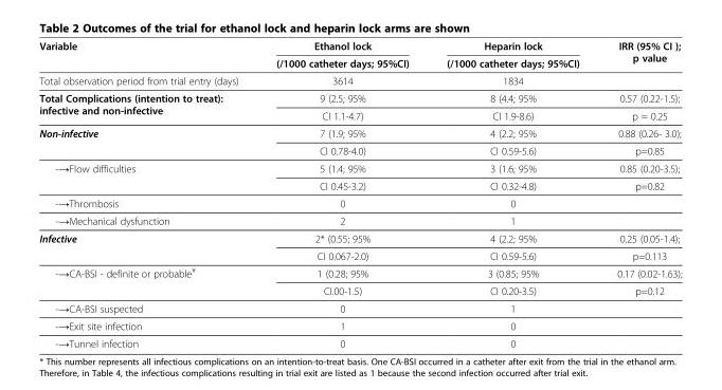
<table><thead><tr><td rowspan="2">Variable</td><td rowspan="2">Ethanol lock (/1000 catheter days; 95%CI)</td><td rowspan="2">Heparin lock (/1000 catheter days; 95%CI)</td><td rowspan="2">IRR (95% CI ); p value</td></tr><tr></tr></thead><tbody><tr><td>Total observation period from trial entry (days)</td><td>3614</td><td>1834</td><td></td></tr><tr><td rowspan="2">Total Complications (intention to treat): infective and non-infective</td><td>9 (2.5; 95%</td><td>8 (4.4; 95%</td><td>0.57 (0.22-1.5);</td></tr><tr><td>CI 1.1-4.7)</td><td>CI 1.9-8.6)</td><td>p = 0.25</td></tr><tr><td rowspan="2">Non-infective</td><td>7 (1.9; 95%</td><td>4 (2.2; 95%</td><td>0.88 (0.26- 3.0);</td></tr><tr><td>CI 0.78-4.0)</td><td>CI 0.59-5.6)</td><td>p=0.85</td></tr><tr><td rowspan="2">-→Flow difficulties</td><td>5 (1.4; 95%</td><td>3 (1.6; 95%</td><td>0.85 (0.20-3.5);</td></tr><tr><td>CI 0.45-3.2)</td><td>CI 0.32-4.8)</td><td>p=0.82</td></tr><tr><td>-→Thrombosis</td><td>0</td><td>0</td><td></td></tr><tr><td>-→Mechanical dysfunction</td><td>2</td><td>1</td><td></td></tr><tr><td rowspan="2">Infective</td><td>2* (0.55; 95%</td><td>4 (2.2; 95%</td><td>0.25 (0.05-1.4);</td></tr><tr><td>CI 0.067-2.0)</td><td>CI 0.59-5.6)</td><td>p=0.113</td></tr><tr><td rowspan="2">-→CA-BSI - definite or probable<sup>¥</sup></td><td>1 (0.28; 95%</td><td>3 (0.85; 95%</td><td>0.17 (0.02-1.63);</td></tr><tr><td>CI.00-1.5)</td><td>CI 0.20-3.5)</td><td>p=0.12</td></tr><tr><td>-→CA-BSI suspected</td><td>0</td><td>1</td><td></td></tr><tr><td>-→Exit site infection</td><td>1</td><td>0</td><td></td></tr><tr><td>-→Tunnel infection</td><td>0</td><td>0</td><td></td></tr></tbody></table>